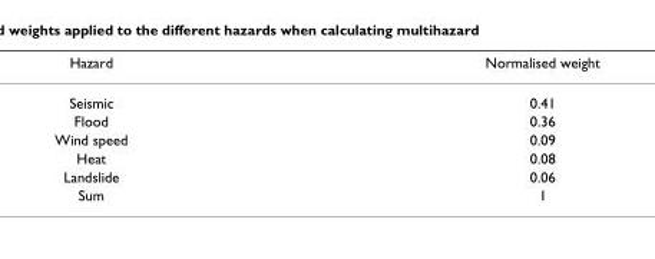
<table><thead><tr><td>Hazard</td><td>Normalised weight</td></tr></thead><tbody><tr><td>Seismic</td><td>0.41</td></tr><tr><td>Flood</td><td>0.36</td></tr><tr><td>Wind speed</td><td>0.09</td></tr><tr><td>Heat</td><td>0.08</td></tr><tr><td>Landslide</td><td>0.06</td></tr><tr><td>Sum</td><td>1</td></tr></tbody></table>